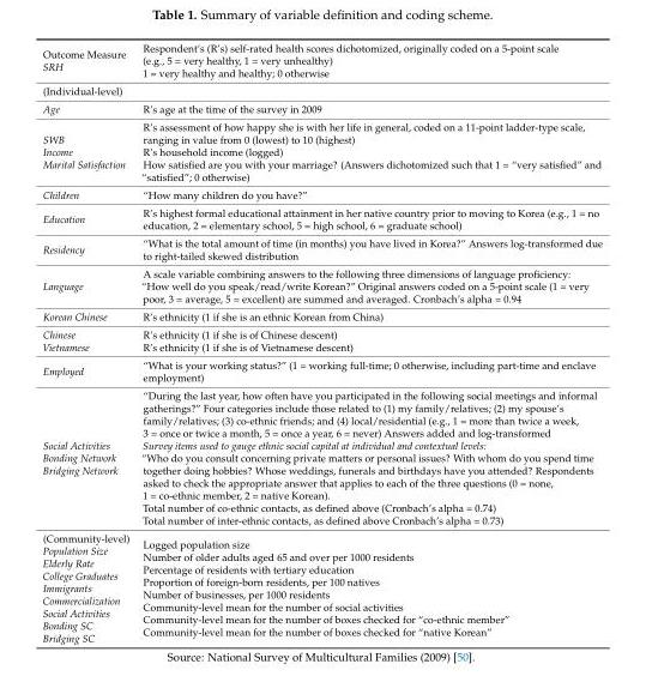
<table><tbody><tr><td>Outcome Measure SRH</td><td>Respondent’s (R’s) self-rated health scores dichotomized, originally coded on a 5-point scale (e.g., 5 = very healthy, 1 = very unhealthy) 1 = very healthy and healthy; 0 otherwise</td></tr><tr><td colspan="2">(Individual-level)</td></tr><tr><td>Age</td><td>R’s age at the time of the survey in 2009</td></tr><tr><td>SWB Income Marital Satisfaction</td><td>R’s assessment of how happy she is with her life in general, coded on a 11-point ladder-type scale, ranging in value from 0 (lowest) to 10 (highest) R’s household income (logged) How satisfied are you with your marriage? (Answers dichotomized such that 1 = “very satisfied” and “satisfied”; 0 otherwise)</td></tr><tr><td>Children</td><td>“How many children do you have?”</td></tr><tr><td>Education</td><td>R’s highest formal educational attainment in her native country prior to moving to Korea (e.g., 1 = no education, 2 = elementary school, 5 = high school, 6 = graduate school)</td></tr><tr><td>Residency</td><td>“What is the total amount of time (in months) you have lived in Korea?” Answers log-transformed due to right-tailed skewed distribution</td></tr><tr><td>Language</td><td>A scale variable combining answers to the following three dimensions of language proficiency: “How well do you speak/read/write Korean?” Original answers coded on a 5-point scale (1 = very poor, 3 = average, 5 = excellent) are summed and averaged. Cronbach’s alpha = 0.94</td></tr><tr><td>Korean Chinese</td><td>R’s ethnicity (1 if she is an ethnic Korean from China)</td></tr><tr><td>Chinese Vietnamese</td><td>R’s ethnicity (1 if she is of Chinese descent) R’s ethnicity (1 if she is of Vietnamese descent)</td></tr><tr><td>Employed</td><td>“What is your working status?” (1 = working full-time; 0 otherwise, including part-time and enclave employment)</td></tr><tr><td>Social Activities Bonding Network Bridging Network</td><td>“During the last year, how often have you participated in the following social meetings and informal gatherings?” Four categories include those related to (1) my family/relatives; (2) my spouse’s family/relatives; (3) co-ethnic friends; and (4) local/residential (e.g., 1 = more than twice a week, 3 = once or twice a month, 5 = once a year, 6 = never) Answers added and log-transformed Survey items used to gauge ethnic social capital at individual and contextual levels: “Who do you consult concerning private matters or personal issues? With whom do you spend time together doing hobbies? Whose weddings, funerals and birthdays have you attended? Respondents asked to check the appropriate answer that applies to each of the three questions (0 = none, 1 = co-ethnic member, 2 = native Korean). Total number of co-ethnic contacts, as defined above (Cronbach’s alpha = 0.74) Total number of inter-ethnic contacts, as defined above Cronbach’s alpha = 0.73)</td></tr><tr><td>(Community-level) Population Size Elderly Rate College Graduates Immigrants Commercialization Social Activities Bonding SC Bridging SC</td><td>Logged population size Number of older adults aged 65 and over per 1000 residents Percentage of residents with tertiary education Proportion of foreign-born residents, per 100 natives Number of businesses, per 1000 residents Community-level mean for the number of social activities Community-level mean for the number of boxes checked for “co-ethnic member” Community-level mean for the number of boxes checked for “native Korean”</td></tr></tbody></table>